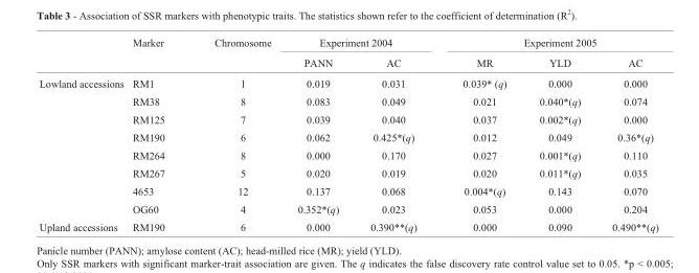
<table><thead><tr><td rowspan="2"></td><td rowspan="2">Marker</td><td rowspan="2">Chromosome</td><td colspan="2">Experiment 2004</td><td colspan="3">Experiment 2005</td></tr><tr><td>PANN</td><td>AC</td><td>MR</td><td>YLD</td><td>AC</td></tr></thead><tbody><tr><td rowspan="8">Lowland accessions</td><td>RM1</td><td>1</td><td>0.019</td><td>0.031</td><td>0.039* (q)</td><td>0.000</td><td>0.000</td></tr><tr><td>RM38</td><td>8</td><td>0.083</td><td>0.049</td><td>0.021</td><td>0.040*(q)</td><td>0.074</td></tr><tr><td>RM125</td><td>7</td><td>0.039</td><td>0.040</td><td>0.037</td><td>0.002*(q)</td><td>0.000</td></tr><tr><td>RM190</td><td>6</td><td>0.062</td><td>0.425*(q)</td><td>0.012</td><td>0.049</td><td>0.36*(q)</td></tr><tr><td>RM264</td><td>8</td><td>0.000</td><td>0.170</td><td>0.027</td><td>0.001*(q)</td><td>0.110</td></tr><tr><td>RM267</td><td>5</td><td>0.020</td><td>0.019</td><td>0.020</td><td>0.011*(q)</td><td>0.035</td></tr><tr><td>4653</td><td>12</td><td>0.137</td><td>0.068</td><td>0.004*(q)</td><td>0.143</td><td>0.070</td></tr><tr><td>OG60</td><td>4</td><td>0.352*(q)</td><td>0.023</td><td>0.053</td><td>0.000</td><td>0.204</td></tr><tr><td>Upland accessions</td><td>RM190</td><td>6</td><td>0.000</td><td>0.390**(q)</td><td>0.000</td><td>0.090</td><td>0.490**(q)</td></tr></tbody></table>